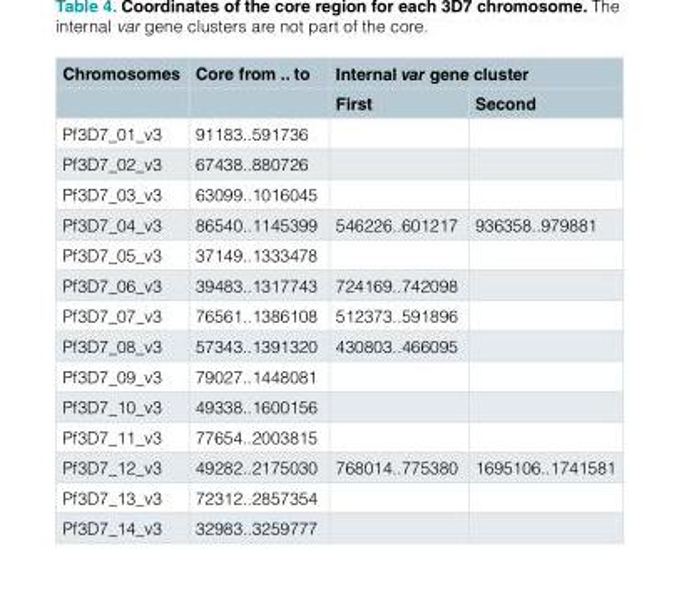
<table><thead><tr><td rowspan="2">Chromosomes</td><td rowspan="2">Core from .. to</td><td colspan="2">Internal var gene cluster</td></tr><tr><td>First</td><td>Second</td></tr></thead><tbody><tr><td>Pf3D7_01_v3</td><td>91183..591736</td><td></td><td></td></tr><tr><td>Pf3D7_02_v3</td><td>67438..880726</td><td></td><td></td></tr><tr><td>Pf3D7_03_v3</td><td>63099..1016045</td><td></td><td></td></tr><tr><td>Pf3D7_04_v3</td><td>86540..1145399</td><td>546226..601217</td><td>936358..979881</td></tr><tr><td>Pf3D7_05_v3</td><td>37149..1333478</td><td></td><td></td></tr><tr><td>Pf3D7_06_v3</td><td>39483..1317743</td><td>724169..742098</td><td></td></tr><tr><td>Pf3D7_07_v3</td><td>76561..1386108</td><td>512373..591896</td><td></td></tr><tr><td>Pf3D7_08_v3</td><td>57343..1391320</td><td>430803..466095</td><td></td></tr><tr><td>Pf3D7_09_v3</td><td>79027..1448081</td><td></td><td></td></tr><tr><td>Pf3D7_10_v3</td><td>49338..1600156</td><td></td><td></td></tr><tr><td>Pf3D7_11_v3</td><td>77654..2003815</td><td></td><td></td></tr><tr><td>Pf3D7_12_v3</td><td>49282..2175030</td><td>768014..775380</td><td>1695106..1741581</td></tr><tr><td>Pf3D7_13_v3</td><td>72312..2857354</td><td></td><td></td></tr><tr><td>Pf3D7_14_v3</td><td>32983..3259777</td><td></td><td></td></tr></tbody></table>